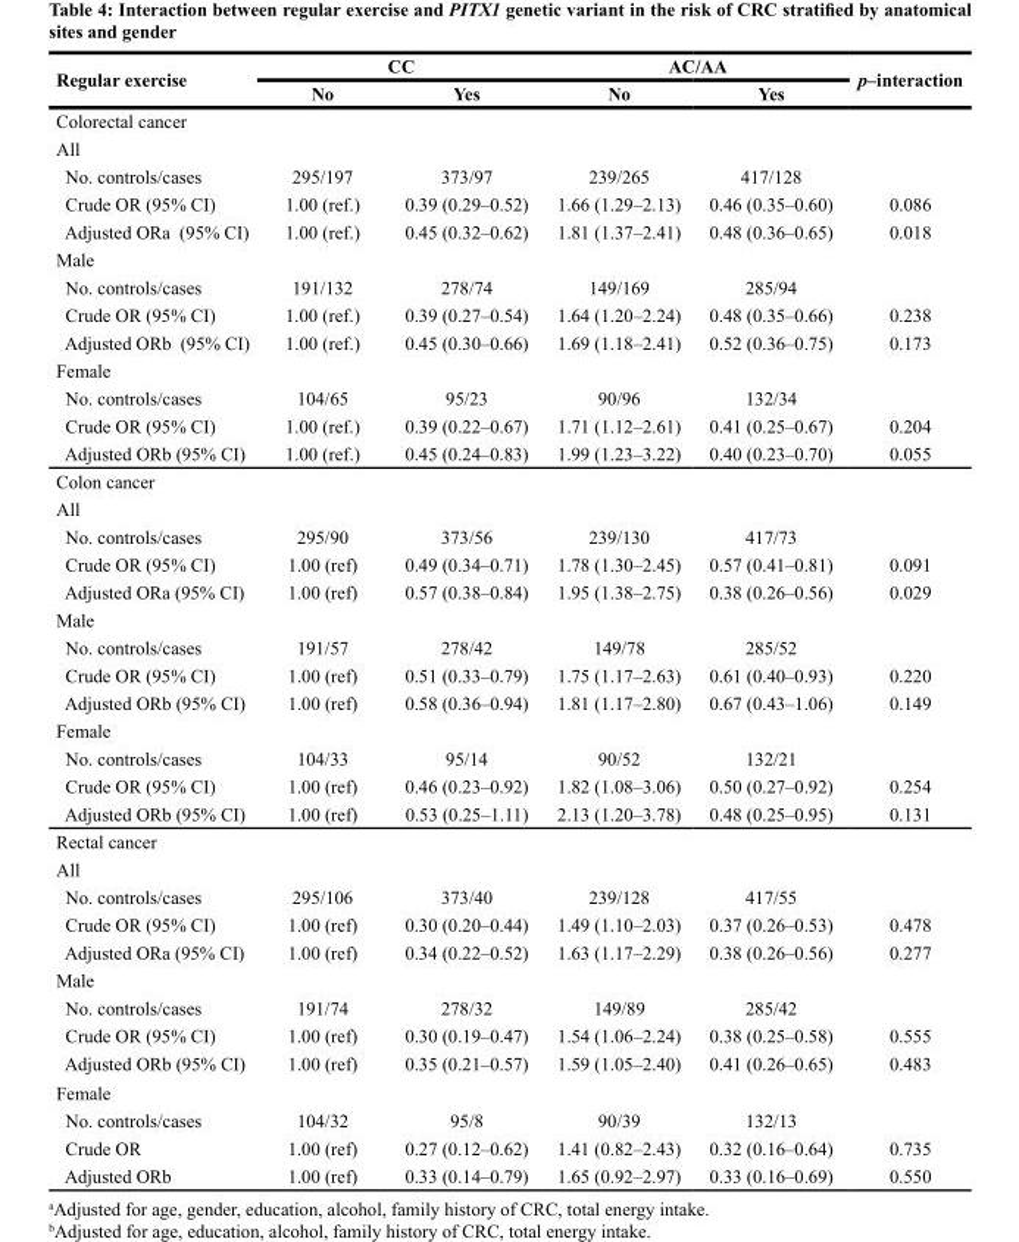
<table><thead><tr><td rowspan="2">Regular exercise</td><td colspan="2">CC</td><td colspan="2">AC/AA</td><td rowspan="2">p–interaction</td></tr><tr><td>No</td><td>Yes</td><td>No</td><td>Yes</td></tr></thead><tbody><tr><td colspan="6">Colorectal cancer</td></tr><tr><td colspan="6">All</td></tr><tr><td>No. controls/cases</td><td>295/197</td><td>373/97</td><td>239/265</td><td>417/128</td><td></td></tr><tr><td>Crude OR (95% CI)</td><td>1.00 (ref.)</td><td>0.39 (0.29–0.52)</td><td>1.66 (1.29–2.13)</td><td>0.46 (0.35–0.60)</td><td>0.086</td></tr><tr><td>Adjusted ORa (95% CI)</td><td>1.00 (ref.)</td><td>0.45 (0.32–0.62)</td><td>1.81 (1.37–2.41)</td><td>0.48 (0.36–0.65)</td><td>0.018</td></tr><tr><td colspan="6">Male</td></tr><tr><td>No. controls/cases</td><td>191/132</td><td>278/74</td><td>149/169</td><td>285/94</td><td></td></tr><tr><td>Crude OR (95% CI)</td><td>1.00 (ref.)</td><td>0.39 (0.27–0.54)</td><td>1.64 (1.20–2.24)</td><td>0.48 (0.35–0.66)</td><td>0.238</td></tr><tr><td>Adjusted ORb (95% CI)</td><td>1.00 (ref.)</td><td>0.45 (0.30–0.66)</td><td>1.69 (1.18–2.41)</td><td>0.52 (0.36–0.75)</td><td>0.173</td></tr><tr><td colspan="6">Female</td></tr><tr><td>No. controls/cases</td><td>104/65</td><td>95/23</td><td>90/96</td><td>132/34</td><td></td></tr><tr><td>Crude OR (95% CI)</td><td>1.00 (ref.)</td><td>0.39 (0.22–0.67)</td><td>1.71 (1.12–2.61)</td><td>0.41 (0.25–0.67)</td><td>0.204</td></tr><tr><td>Adjusted ORb (95% CI)</td><td>1.00 (ref.)</td><td>0.45 (0.24–0.83)</td><td>1.99 (1.23–3.22)</td><td>0.40 (0.23–0.70)</td><td>0.055</td></tr><tr><td colspan="6">Colon cancer</td></tr><tr><td colspan="6">All</td></tr><tr><td>No. controls/cases</td><td>295/90</td><td>373/56</td><td>239/130</td><td>417/73</td><td></td></tr><tr><td>Crude OR (95% CI)</td><td>1.00 (ref)</td><td>0.49 (0.34–0.71)</td><td>1.78 (1.30–2.45)</td><td>0.57 (0.41–0.81)</td><td>0.091</td></tr><tr><td>Adjusted ORa (95% CI)</td><td>1.00 (ref)</td><td>0.57 (0.38–0.84)</td><td>1.95 (1.38–2.75)</td><td>0.38 (0.26–0.56)</td><td>0.029</td></tr><tr><td colspan="6">Male</td></tr><tr><td>No. controls/cases</td><td>191/57</td><td>278/42</td><td>149/78</td><td>285/52</td><td></td></tr><tr><td>Crude OR (95% CI)</td><td>1.00 (ref)</td><td>0.51 (0.33–0.79)</td><td>1.75 (1.17–2.63)</td><td>0.61 (0.40–0.93)</td><td>0.220</td></tr><tr><td>Adjusted ORb (95% CI)</td><td>1.00 (ref)</td><td>0.58 (0.36–0.94)</td><td>1.81 (1.17–2.80)</td><td>0.67 (0.43–1.06)</td><td>0.149</td></tr><tr><td colspan="6">Female</td></tr><tr><td>No. controls/cases</td><td>104/33</td><td>95/14</td><td>90/52</td><td>132/21</td><td></td></tr><tr><td>Crude OR (95% CI)</td><td>1.00 (ref)</td><td>0.46 (0.23–0.92)</td><td>1.82 (1.08–3.06)</td><td>0.50 (0.27–0.92)</td><td>0.254</td></tr><tr><td>Adjusted ORb (95% CI)</td><td>1.00 (ref)</td><td>0.53 (0.25–1.11)</td><td>2.13 (1.20–3.78)</td><td>0.48 (0.25–0.95)</td><td>0.131</td></tr><tr><td colspan="6">Rectal cancer</td></tr><tr><td colspan="6">All</td></tr><tr><td>No. controls/cases</td><td>295/106</td><td>373/40</td><td>239/128</td><td>417/55</td><td></td></tr><tr><td>Crude OR (95% CI)</td><td>1.00 (ref)</td><td>0.30 (0.20–0.44)</td><td>1.49 (1.10–2.03)</td><td>0.37 (0.26–0.53)</td><td>0.478</td></tr><tr><td>Adjusted ORa (95% CI)</td><td>1.00 (ref)</td><td>0.34 (0.22–0.52)</td><td>1.63 (1.17–2.29)</td><td>0.38 (0.26–0.56)</td><td>0.277</td></tr><tr><td colspan="6">Male</td></tr><tr><td>No. controls/cases</td><td>191/74</td><td>278/32</td><td>149/89</td><td>285/42</td><td></td></tr><tr><td>Crude OR (95% CI)</td><td>1.00 (ref)</td><td>0.30 (0.19–0.47)</td><td>1.54 (1.06–2.24)</td><td>0.38 (0.25–0.58)</td><td>0.555</td></tr><tr><td>Adjusted ORb (95% CI)</td><td>1.00 (ref)</td><td>0.35 (0.21–0.57)</td><td>1.59 (1.05–2.40)</td><td>0.41 (0.26–0.65)</td><td>0.483</td></tr><tr><td colspan="6">Female</td></tr><tr><td>No. controls/cases</td><td>104/32</td><td>95/8</td><td>90/39</td><td>132/13</td><td></td></tr><tr><td>Crude OR</td><td>1.00 (ref)</td><td>0.27 (0.12–0.62)</td><td>1.41 (0.82–2.43)</td><td>0.32 (0.16–0.64)</td><td>0.735</td></tr><tr><td>Adjusted ORb</td><td>1.00 (ref)</td><td>0.33 (0.14–0.79)</td><td>1.65 (0.92–2.97)</td><td>0.33 (0.16–0.69)</td><td>0.550</td></tr></tbody></table>